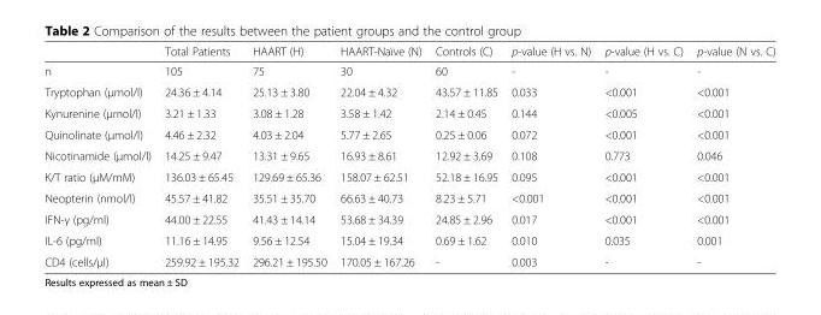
<table><thead><tr><td></td><td>Total Patients</td><td>HAART (H)</td><td>HAART-Naïve (N)</td><td>Controls (C)</td><td>p-value (H vs. N)</td><td>p-value (H vs. C)</td><td>p-value (N vs. C)</td></tr></thead><tbody><tr><td>n</td><td>105</td><td>75</td><td>30</td><td>60</td><td>-</td><td>-</td><td>-</td></tr><tr><td>Tryptophan (μmol/l)</td><td>24.36 ± 4.14</td><td>25.13 ± 3.80</td><td>22.04 ± 4.32</td><td>43.57 ± 11.85</td><td>0.033</td><td>&lt;0.001</td><td>&lt;0.001</td></tr><tr><td>Kynurenine (μmol/l)</td><td>3.21 ± 1.33</td><td>3.08 ± 1.28</td><td>3.58 ± 1.42</td><td>2.14 ± 0.45</td><td>0.144</td><td>&lt;0.005</td><td>&lt;0.001</td></tr><tr><td>Quinolinate (μmol/l)</td><td>4.46 ± 2.32</td><td>4.03 ± 2.04</td><td>5.77 ± 2.65</td><td>0.25 ± 0.06</td><td>0.072</td><td>&lt;0.001</td><td>&lt;0.001</td></tr><tr><td>Nicotinamide (μmol/l)</td><td>14.25 ± 9.47</td><td>13.31 ± 9.65</td><td>16.93 ± 8.61</td><td>12.92 ± 3.69</td><td>0.108</td><td>0.773</td><td>0.046</td></tr><tr><td>K/T ratio (μM/mM)</td><td>136.03 ± 65.45</td><td>129.69 ± 65.36</td><td>158.07 ± 62.51</td><td>52.18 ± 16.95</td><td>0.095</td><td>&lt;0.001</td><td>&lt;0.001</td></tr><tr><td>Neopterin (nmol/l)</td><td>45.57 ± 41.82</td><td>35.51 ± 35.70</td><td>66.63 ± 40.73</td><td>8.23 ± 5.71</td><td>&lt;0.001</td><td>&lt;0.001</td><td>&lt;0.001</td></tr><tr><td>IFN-γ (pg/ml)</td><td>44.00 ± 22.55</td><td>41.43 ± 14.14</td><td>53.68 ± 34.39</td><td>24.85 ± 2.96</td><td>0.017</td><td>&lt;0.001</td><td>&lt;0.001</td></tr><tr><td>IL-6 (pg/ml)</td><td>11.16 ± 14.95</td><td>9.56 ± 12.54</td><td>15.04 ± 19.34</td><td>0.69 ± 1.62</td><td>0.010</td><td>0.035</td><td>0.001</td></tr><tr><td>CD4 (cells/μl)</td><td>259.92 ± 195.32</td><td>296.21 ± 195.50</td><td>170.05 ± 167.26</td><td>-</td><td>0.003</td><td>-</td><td>-</td></tr></tbody></table>